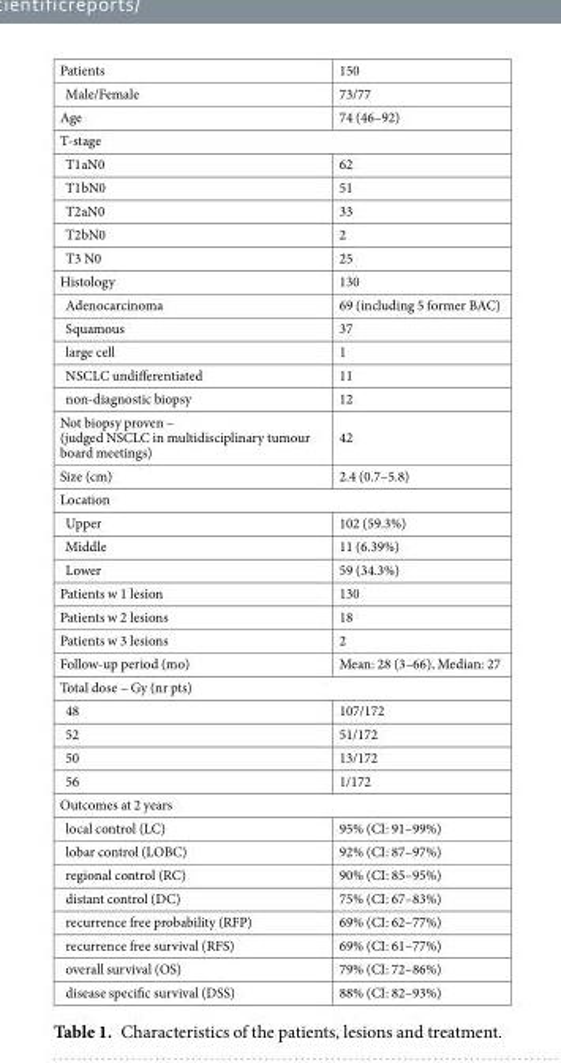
<table><tbody><tr><td>Patients</td><td>150</td></tr><tr><td>Male/Female</td><td>73/77</td></tr><tr><td>Age</td><td>74 (46–92)</td></tr><tr><td colspan="2">T-stage</td></tr><tr><td>T1aN0</td><td>62</td></tr><tr><td>T1bN0</td><td>51</td></tr><tr><td>T2aN0</td><td>33</td></tr><tr><td>T2bN0</td><td>2</td></tr><tr><td>T3 N0</td><td>25</td></tr><tr><td>Histology</td><td>130</td></tr><tr><td>Adenocarcinoma</td><td>69 (including 5 former BAC)</td></tr><tr><td>Squamous</td><td>37</td></tr><tr><td>large cell</td><td>1</td></tr><tr><td>NSCLC undifferentiated</td><td>11</td></tr><tr><td>non-diagnostic biopsy</td><td>12</td></tr><tr><td>Not biopsy proven – (judged NSCLC in multidisciplinary tumour board meetings)</td><td>42</td></tr><tr><td>Size (cm)</td><td>2.4 (0.7–5.8)</td></tr><tr><td colspan="2">Location</td></tr><tr><td>Upper</td><td>102 (59.3%)</td></tr><tr><td>Middle</td><td>11 (6.39%)</td></tr><tr><td>Lower</td><td>59 (34.3%)</td></tr><tr><td>Patients w 1 lesion</td><td>130</td></tr><tr><td>Patients w 2 lesions</td><td>18</td></tr><tr><td>Patients w 3 lesions</td><td>2</td></tr><tr><td>Follow-up period (mo)</td><td>Mean: 28 (3–66), Median: 27</td></tr><tr><td colspan="2">Total dose – Gy (nr pts)</td></tr><tr><td>48</td><td>107/172</td></tr><tr><td>52</td><td>51/172</td></tr><tr><td>50</td><td>13/172</td></tr><tr><td>56</td><td>1/172</td></tr><tr><td colspan="2">Outcomes at 2 years</td></tr><tr><td>local control (LC)</td><td>95% (CI: 91–99%)</td></tr><tr><td>lobar control (LOBC)</td><td>92% (CI: 87–97%)</td></tr><tr><td>regional control (RC)</td><td>90% (CI: 85–95%)</td></tr><tr><td>distant control (DC)</td><td>75% (CI: 67–83%)</td></tr><tr><td>recurrence free probability (RFP)</td><td>69% (CI: 62–77%)</td></tr><tr><td>recurrence free survival (RFS)</td><td>69% (CI: 61–77%)</td></tr><tr><td>overall survival (OS)</td><td>79% (CI: 72–86%)</td></tr><tr><td>disease specific survival (DSS)</td><td>88% (CI: 82–93%)</td></tr></tbody></table>